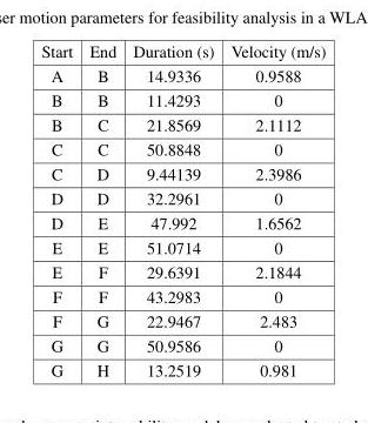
<table><thead><tr><td>Start</td><td>End</td><td>Duration (s)</td><td>Velocity (m/s)</td></tr></thead><tbody><tr><td>A</td><td>B</td><td>14.9336</td><td>0.9588</td></tr><tr><td>B</td><td>B</td><td>11.4293</td><td>0</td></tr><tr><td>B</td><td>C</td><td>21.8569</td><td>2.1112</td></tr><tr><td>C</td><td>C</td><td>50.8848</td><td>0</td></tr><tr><td>C</td><td>D</td><td>9.44139</td><td>2.3986</td></tr><tr><td>D</td><td>D</td><td>32.2961</td><td>0</td></tr><tr><td>D</td><td>E</td><td>47.992</td><td>1.6562</td></tr><tr><td>E</td><td>E</td><td>51.0714</td><td>0</td></tr><tr><td>E</td><td>F</td><td>29.6391</td><td>2.1844</td></tr><tr><td>F</td><td>F</td><td>43.2983</td><td>0</td></tr><tr><td>F</td><td>G</td><td>22.9467</td><td>2.483</td></tr><tr><td>G</td><td>G</td><td>50.9586</td><td>0</td></tr><tr><td>G</td><td>H</td><td>13.2519</td><td>0.981</td></tr></tbody></table>